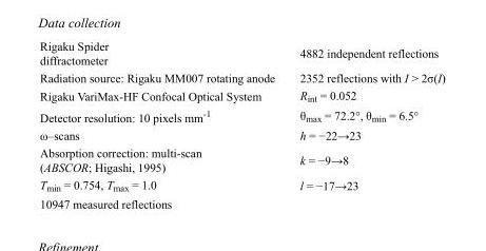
<table><tbody><tr><td>Rigaku Spider diffractometer</td><td>4882 independent reflections</td></tr><tr><td>Radiation source: Rigaku MM007 rotating anode</td><td>2352 reflections with I &gt; 2σ(I)</td></tr><tr><td>Rigaku VariMax-HF Confocal Optical System</td><td>R<sub>int</sub> = 0.052</td></tr><tr><td>Detector resolution: 10 pixels mm<sup>-1</sup></td><td>θ<sub>max</sub> = 72.2°, θ<sub>min</sub> = 6.5°</td></tr><tr><td>ω–scans</td><td>h = −22→23</td></tr><tr><td>Absorption correction: multi-scan (ABSCOR; Higashi, 1995)</td><td>k = −9→8</td></tr><tr><td>T<sub>min</sub> = 0.754, T<sub>max</sub> = 1.0</td><td>l = −17→23</td></tr><tr><td>10947 measured reflections</td><td></td></tr></tbody></table>